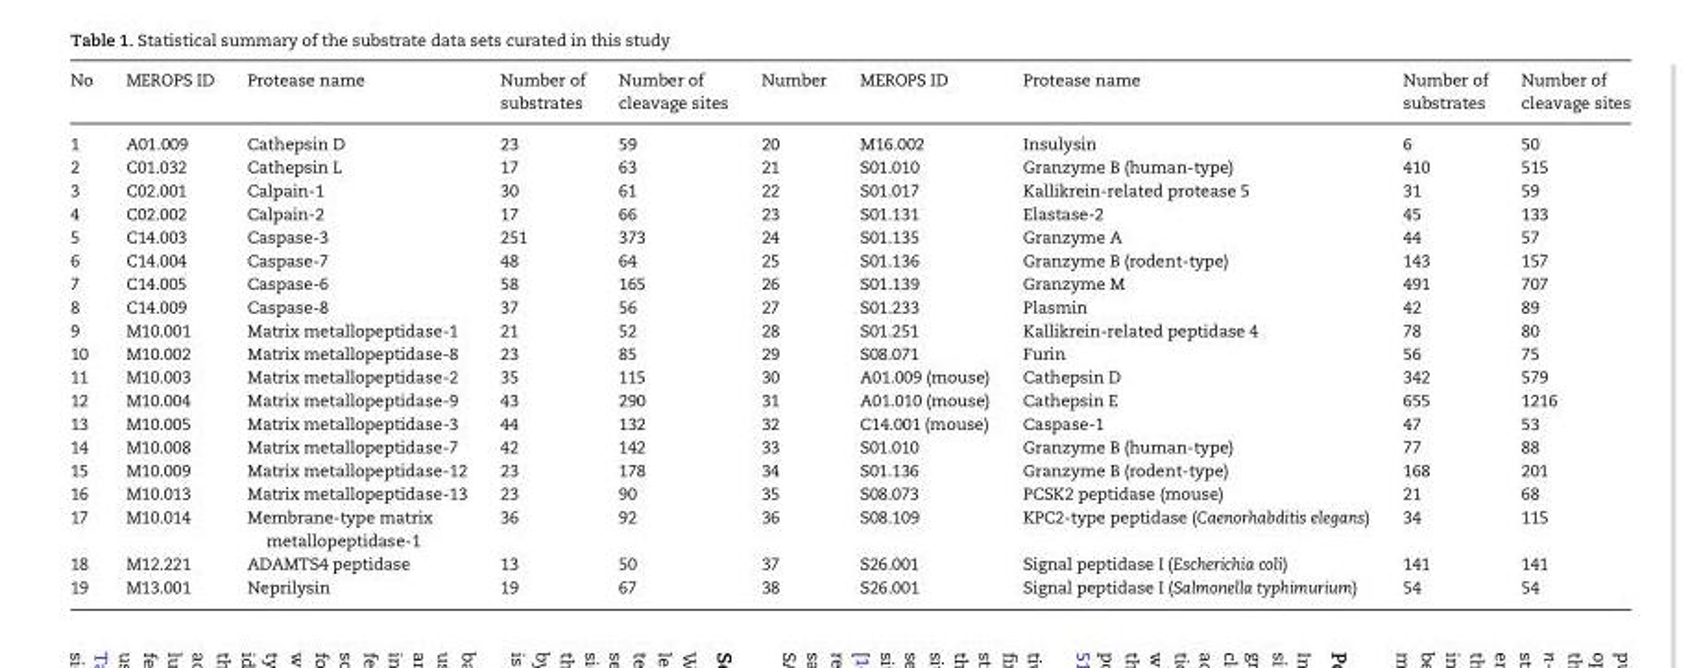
<table><thead><tr><td>No</td><td>MEROPS ID</td><td>Protease name</td><td>Number of substrates</td><td>Number of cleavage sites</td><td>Number</td><td>MEROPS ID</td><td>Protease name</td><td>Number of substrates</td><td>Number of cleavage sites</td></tr></thead><tbody><tr><td>1</td><td>A01.009</td><td>Cathepsin D</td><td>23</td><td>59</td><td>20</td><td>M16.002</td><td>Insulysin</td><td>6</td><td>50</td></tr><tr><td>2</td><td>C01.032</td><td>Cathepsin L</td><td>17</td><td>63</td><td>21</td><td>S01.010</td><td>Granzyme B (human-type)</td><td>410</td><td>515</td></tr><tr><td>3</td><td>C02.001</td><td>Calpain-1</td><td>30</td><td>61</td><td>22</td><td>S01.017</td><td>Kallikrein-related protease 5</td><td>31</td><td>59</td></tr><tr><td>4</td><td>C02.002</td><td>Calpain-2</td><td>17</td><td>66</td><td>23</td><td>S01.131</td><td>Elastase-2</td><td>45</td><td>133</td></tr><tr><td>5</td><td>C14.003</td><td>Caspase-3</td><td>251</td><td>373</td><td>24</td><td>S01.135</td><td>Granzyme A</td><td>44</td><td>57</td></tr><tr><td>6</td><td>C14.004</td><td>Caspase-7</td><td>48</td><td>64</td><td>25</td><td>S01.136</td><td>Granzyme B (rodent-type)</td><td>143</td><td>157</td></tr><tr><td>7</td><td>C14.005</td><td>Caspase-6</td><td>58</td><td>165</td><td>26</td><td>S01.139</td><td>Granzyme M</td><td>491</td><td>707</td></tr><tr><td>8</td><td>C14.009</td><td>Caspase-8</td><td>37</td><td>56</td><td>27</td><td>S01.233</td><td>Plasmin</td><td>42</td><td>89</td></tr><tr><td>9</td><td>M10.001</td><td>Matrix metallopeptidase-1</td><td>21</td><td>52</td><td>28</td><td>S01.251</td><td>Kallikrein-related peptidase 4</td><td>78</td><td>80</td></tr><tr><td>10</td><td>M10.002</td><td>Matrix metallopeptidase-8</td><td>23</td><td>85</td><td>29</td><td>S08.071</td><td>Furin</td><td>56</td><td>75</td></tr><tr><td>11</td><td>M10.003</td><td>Matrix metallopeptidase-2</td><td>35</td><td>115</td><td>30</td><td>A01.009 (mouse)</td><td>Cathepsin D</td><td>342</td><td>579</td></tr><tr><td>12</td><td>M10.004</td><td>Matrix metallopeptidase-9</td><td>43</td><td>290</td><td>31</td><td>A01.010 (mouse)</td><td>Cathepsin E</td><td>655</td><td>1216</td></tr><tr><td>13</td><td>M10.005</td><td>Matrix metallopeptidase-3</td><td>44</td><td>132</td><td>32</td><td>C14.001 (mouse)</td><td>Caspase-1</td><td>47</td><td>53</td></tr><tr><td>14</td><td>M10.008</td><td>Matrix metallopeptidase-7</td><td>42</td><td>142</td><td>33</td><td>S01.010</td><td>Granzyme B (human-type)</td><td>77</td><td>88</td></tr><tr><td>15</td><td>M10.009</td><td>Matrix metallopeptidase-12</td><td>23</td><td>178</td><td>34</td><td>S01.136</td><td>Granzyme B (rodent-type)</td><td>168</td><td>201</td></tr><tr><td>16</td><td>M10.013</td><td>Matrix metallopeptidase-13</td><td>23</td><td>90</td><td>35</td><td>S08.073</td><td>PCSK2 peptidase (mouse)</td><td>21</td><td>68</td></tr><tr><td>17</td><td>M10.014</td><td>Membrane-type matrix metallopeptidase-1</td><td>36</td><td>92</td><td>36</td><td>S08.109</td><td>KPC2-type peptidase (Caenorhabditis elegans)</td><td>34</td><td>115</td></tr><tr><td>18</td><td>M12.221</td><td>ADAMTS4 peptidase</td><td>13</td><td>50</td><td>37</td><td>S26.001</td><td>Signal peptidase I (Escherichia coli)</td><td>141</td><td>141</td></tr><tr><td>19</td><td>M13.001</td><td>Neprilysin</td><td>19</td><td>67</td><td>38</td><td>S26.001</td><td>Signal peptidase I (Salmonella typhimurium)</td><td>54</td><td>54</td></tr></tbody></table>